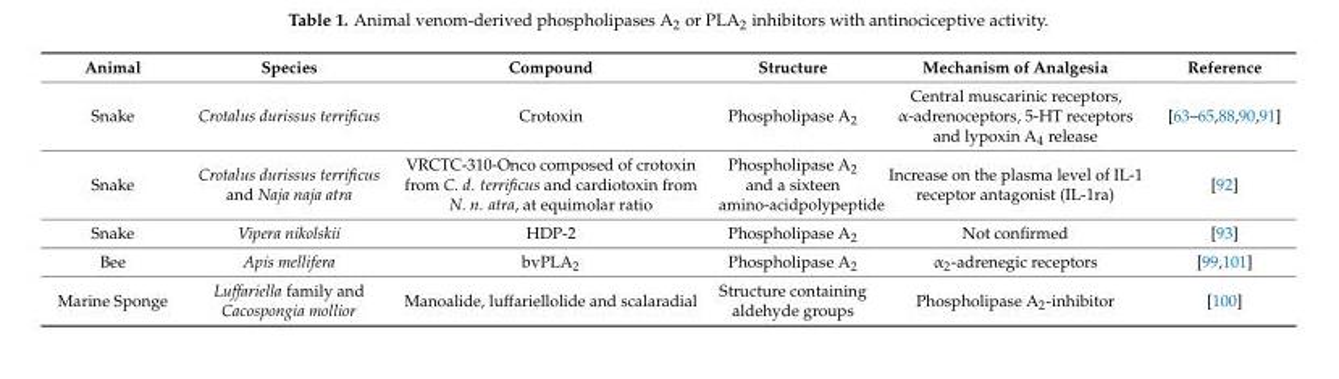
<table><thead><tr><td>Animal</td><td>Species</td><td>Compound</td><td>Structure</td><td>Mechanism of Analgesia</td><td>Reference</td></tr></thead><tbody><tr><td>Snake</td><td>Crotalus durissus terrificus</td><td>Crotoxin</td><td>Phospholipase A<sub>2</sub></td><td>Central muscarinic receptors, α-adrenoceptors, 5-HT receptors and lypoxin A<sub>4</sub> release</td><td>[63–65,88,90,91]</td></tr><tr><td>Snake</td><td>Crotalus durissus terrificus and Naja naja atra</td><td>VRCTC-310-Onco composed of crotoxin from C. d. terrificus and cardiotoxin from N. n. atra, at equimolar ratio</td><td>Phospholipase A<sub>2</sub> and a sixteen amino-acidpolypeptide</td><td>Increase on the plasma level of IL-1 receptor antagonist (IL-1ra)</td><td>[92]</td></tr><tr><td>Snake</td><td>Vipera nikolskii</td><td>HDP-2</td><td>Phospholipase A<sub>2</sub></td><td>Not confirmed</td><td>[93]</td></tr><tr><td>Bee</td><td>Apis mellifera</td><td>bvPLA<sub>2</sub></td><td>Phospholipase A<sub>2</sub></td><td>α<sub>2</sub>-adrenegic receptors</td><td>[99,101]</td></tr><tr><td>Marine Sponge</td><td>Luffariella family and Cacospongia mollior</td><td>Manoalide, luffariellolide and scalaradial</td><td>Structure containing aldehyde groups</td><td>Phospholipase A<sub>2</sub>-inhibitor</td><td>[100]</td></tr></tbody></table>